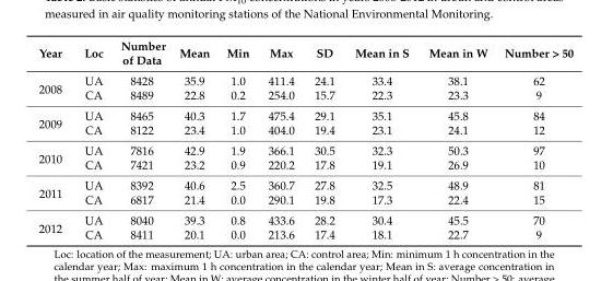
<table><thead><tr><td>Year</td><td>Loc</td><td>Number of Data</td><td>Mean</td><td>Min</td><td>Max</td><td>SD</td><td>Mean in S</td><td>Mean in W</td><td>Number &gt; 50</td></tr></thead><tbody><tr><td rowspan="2">2008</td><td>UA</td><td>8428</td><td>35.9</td><td>1.0</td><td>411.4</td><td>24.1</td><td>33.4</td><td>38.1</td><td>62</td></tr><tr><td>CA</td><td>8489</td><td>22.8</td><td>0.2</td><td>254.0</td><td>15.7</td><td>22.3</td><td>23.3</td><td>9</td></tr><tr><td rowspan="2">2009</td><td>UA</td><td>8465</td><td>40.3</td><td>1.7</td><td>475.4</td><td>29.1</td><td>35.1</td><td>45.8</td><td>84</td></tr><tr><td>CA</td><td>8122</td><td>23.4</td><td>1.0</td><td>404.0</td><td>19.4</td><td>23.1</td><td>24.1</td><td>12</td></tr><tr><td rowspan="2">2010</td><td>UA</td><td>7816</td><td>42.9</td><td>1.9</td><td>366.1</td><td>30.5</td><td>32.3</td><td>50.3</td><td>97</td></tr><tr><td>CA</td><td>7421</td><td>23.2</td><td>0.9</td><td>220.2</td><td>17.8</td><td>19.1</td><td>26.9</td><td>10</td></tr><tr><td rowspan="2">2011</td><td>UA</td><td>8392</td><td>40.6</td><td>2.5</td><td>360.7</td><td>27.8</td><td>32.5</td><td>48.9</td><td>81</td></tr><tr><td>CA</td><td>6817</td><td>21.4</td><td>0.0</td><td>290.1</td><td>19.8</td><td>17.3</td><td>22.4</td><td>15</td></tr><tr><td rowspan="2">2012</td><td>UA</td><td>8040</td><td>39.3</td><td>0.8</td><td>433.6</td><td>28.2</td><td>30.4</td><td>45.5</td><td>70</td></tr><tr><td>CA</td><td>8411</td><td>20.1</td><td>0.0</td><td>213.6</td><td>17.4</td><td>18.1</td><td>22.7</td><td>9</td></tr></tbody></table>